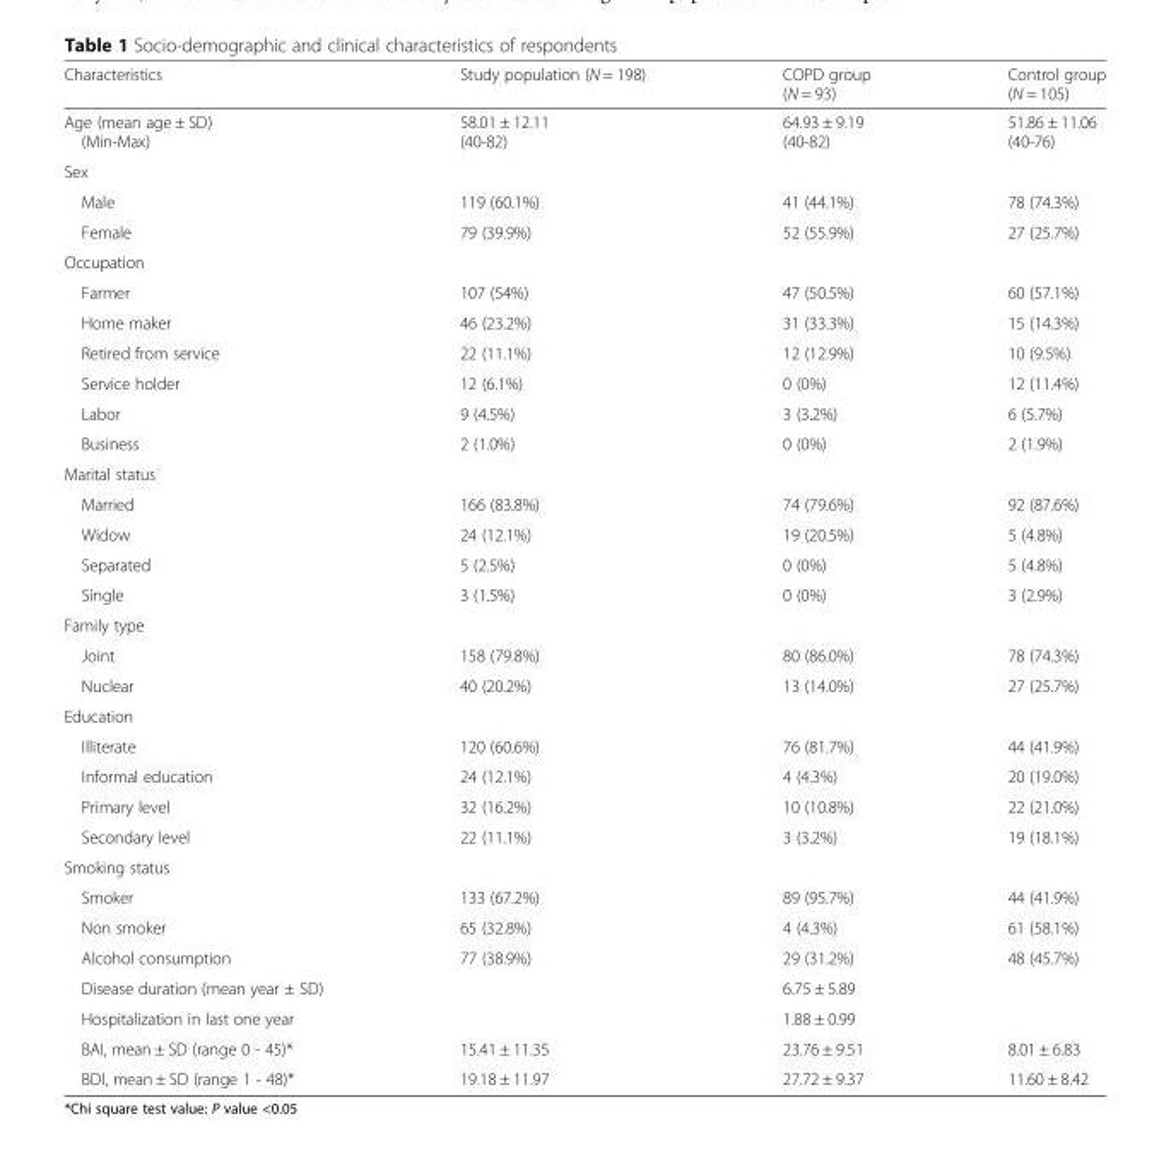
<table><thead><tr><td>Characteristics</td><td>Study population (N = 198)</td><td>COPD group (N = 93)</td><td>Control group (N = 105)</td></tr></thead><tbody><tr><td>Age (mean age ± SD) (Min-Max)</td><td>58.01 ± 12.11 (40-82)</td><td>64.93 ± 9.19 (40-82)</td><td>51.86 ± 11.06 (40-76)</td></tr><tr><td colspan="4">Sex</td></tr><tr><td>Male</td><td>119 (60.1%)</td><td>41 (44.1%)</td><td>78 (74.3%)</td></tr><tr><td>Female</td><td>79 (39.9%)</td><td>52 (55.9%)</td><td>27 (25.7%)</td></tr><tr><td colspan="4">Occupation</td></tr><tr><td>Farmer</td><td>107 (54%)</td><td>47 (50.5%)</td><td>60 (57.1%)</td></tr><tr><td>Home maker</td><td>46 (23.2%)</td><td>31 (33.3%)</td><td>15 (14.3%)</td></tr><tr><td>Retired from service</td><td>22 (11.1%)</td><td>12 (12.9%)</td><td>10 (9.5%)</td></tr><tr><td>Service holder</td><td>12 (6.1%)</td><td>0 (0%)</td><td>12 (11.4%)</td></tr><tr><td>Labor</td><td>9 (4.5%)</td><td>3 (3.2%)</td><td>6 (5.7%)</td></tr><tr><td>Business</td><td>2 (1.0%)</td><td>0 (0%)</td><td>2 (1.9%)</td></tr><tr><td colspan="4">Marital status</td></tr><tr><td>Married</td><td>166 (83.8%)</td><td>74 (79.6%)</td><td>92 (87.6%)</td></tr><tr><td>Widow</td><td>24 (12.1%)</td><td>19 (20.5%)</td><td>5 (4.8%)</td></tr><tr><td>Separated</td><td>5 (2.5%)</td><td>0 (0%)</td><td>5 (4.8%)</td></tr><tr><td>Single</td><td>3 (1.5%)</td><td>0 (0%)</td><td>3 (2.9%)</td></tr><tr><td colspan="4">Family type</td></tr><tr><td>Joint</td><td>158 (79.8%)</td><td>80 (86.0%)</td><td>78 (74.3%)</td></tr><tr><td>Nuclear</td><td>40 (20.2%)</td><td>13 (14.0%)</td><td>27 (25.7%)</td></tr><tr><td colspan="4">Education</td></tr><tr><td>Illiterate</td><td>120 (60.6%)</td><td>76 (81.7%)</td><td>44 (41.9%)</td></tr><tr><td>Informal education</td><td>24 (12.1%)</td><td>4 (4.3%)</td><td>20 (19.0%)</td></tr><tr><td>Primary level</td><td>32 (16.2%)</td><td>10 (10.8%)</td><td>22 (21.0%)</td></tr><tr><td>Secondary level</td><td>22 (11.1%)</td><td>3 (3.2%)</td><td>19 (18.1%)</td></tr><tr><td colspan="4">Smoking status</td></tr><tr><td>Smoker</td><td>133 (67.2%)</td><td>89 (95.7%)</td><td>44 (41.9%)</td></tr><tr><td>Non smoker</td><td>65 (32.8%)</td><td>4 (4.3%)</td><td>61 (58.1%)</td></tr><tr><td>Alcohol consumption</td><td>77 (38.9%)</td><td>29 (31.2%)</td><td>48 (45.7%)</td></tr><tr><td>Disease duration (mean year ± SD)</td><td></td><td>6.75 ± 5.89</td><td></td></tr><tr><td>Hospitalization in last one year</td><td></td><td>1.88 ± 0.99</td><td></td></tr><tr><td>BAI, mean ± SD (range 0 - 45)*</td><td>15.41 ± 11.35</td><td>23.76 ± 9.51</td><td>8.01 ± 6.83</td></tr><tr><td>BDI, mean ± SD (range 1 - 48)*</td><td>19.18 ± 11.97</td><td>27.72 ± 9.37</td><td>11.60 ± 8.42</td></tr></tbody></table>